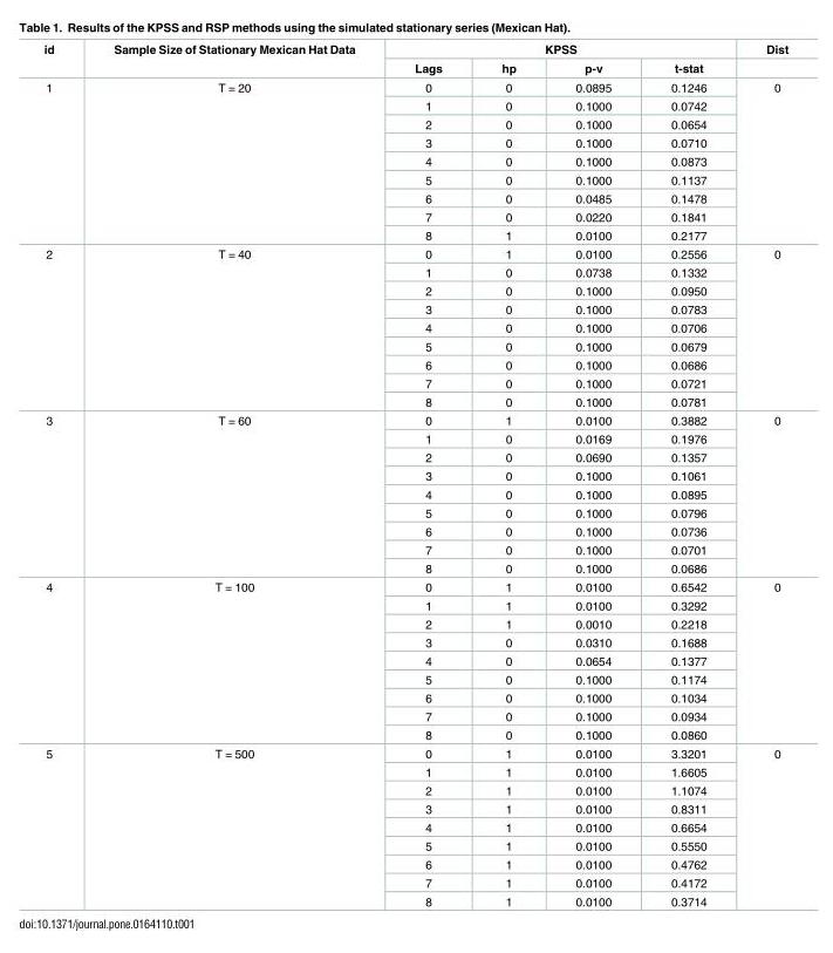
<table><thead><tr><td rowspan="2">id</td><td rowspan="2">Sample Size of Stationary Mexican Hat Data</td><td colspan="4">KPSS</td><td rowspan="2">Dist</td></tr><tr><td>Lags</td><td>hp</td><td>p-v</td><td>t-stat</td></tr></thead><tbody><tr><td rowspan="9">1</td><td rowspan="9">T = 20</td><td>0</td><td>0</td><td>0.0895</td><td>0.1246</td><td rowspan="9">0</td></tr><tr><td>1</td><td>0</td><td>0.1000</td><td>0.0742</td></tr><tr><td>2</td><td>0</td><td>0.1000</td><td>0.0654</td></tr><tr><td>3</td><td>0</td><td>0.1000</td><td>0.0710</td></tr><tr><td>4</td><td>0</td><td>0.1000</td><td>0.0873</td></tr><tr><td>5</td><td>0</td><td>0.1000</td><td>0.1137</td></tr><tr><td>6</td><td>0</td><td>0.0485</td><td>0.1478</td></tr><tr><td>7</td><td>0</td><td>0.0220</td><td>0.1841</td></tr><tr><td>8</td><td>1</td><td>0.0100</td><td>0.2177</td></tr><tr><td rowspan="9">2</td><td rowspan="9">T = 40</td><td>0</td><td>1</td><td>0.0100</td><td>0.2556</td><td rowspan="9">0</td></tr><tr><td>1</td><td>0</td><td>0.0738</td><td>0.1332</td></tr><tr><td>2</td><td>0</td><td>0.1000</td><td>0.0950</td></tr><tr><td>3</td><td>0</td><td>0.1000</td><td>0.0783</td></tr><tr><td>4</td><td>0</td><td>0.1000</td><td>0.0706</td></tr><tr><td>5</td><td>0</td><td>0.1000</td><td>0.0679</td></tr><tr><td>6</td><td>0</td><td>0.1000</td><td>0.0686</td></tr><tr><td>7</td><td>0</td><td>0.1000</td><td>0.0721</td></tr><tr><td>8</td><td>0</td><td>0.1000</td><td>0.0781</td></tr><tr><td rowspan="9">3</td><td rowspan="9">T = 60</td><td>0</td><td>1</td><td>0.0100</td><td>0.3882</td><td rowspan="9">0</td></tr><tr><td>1</td><td>0</td><td>0.0169</td><td>0.1976</td></tr><tr><td>2</td><td>0</td><td>0.0690</td><td>0.1357</td></tr><tr><td>3</td><td>0</td><td>0.1000</td><td>0.1061</td></tr><tr><td>4</td><td>0</td><td>0.1000</td><td>0.0895</td></tr><tr><td>5</td><td>0</td><td>0.1000</td><td>0.0796</td></tr><tr><td>6</td><td>0</td><td>0.1000</td><td>0.0736</td></tr><tr><td>7</td><td>0</td><td>0.1000</td><td>0.0701</td></tr><tr><td>8</td><td>0</td><td>0.1000</td><td>0.0686</td></tr><tr><td rowspan="9">4</td><td rowspan="9">T = 100</td><td>0</td><td>1</td><td>0.0100</td><td>0.6542</td><td rowspan="9">0</td></tr><tr><td>1</td><td>1</td><td>0.0100</td><td>0.3292</td></tr><tr><td>2</td><td>1</td><td>0.0010</td><td>0.2218</td></tr><tr><td>3</td><td>0</td><td>0.0310</td><td>0.1688</td></tr><tr><td>4</td><td>0</td><td>0.0654</td><td>0.1377</td></tr><tr><td>5</td><td>0</td><td>0.1000</td><td>0.1174</td></tr><tr><td>6</td><td>0</td><td>0.1000</td><td>0.1034</td></tr><tr><td>7</td><td>0</td><td>0.1000</td><td>0.0934</td></tr><tr><td>8</td><td>0</td><td>0.1000</td><td>0.0860</td></tr><tr><td rowspan="9">5</td><td rowspan="9">T = 500</td><td>0</td><td>1</td><td>0.0100</td><td>3.3201</td><td rowspan="9">0</td></tr><tr><td>1</td><td>1</td><td>0.0100</td><td>1.6605</td></tr><tr><td>2</td><td>1</td><td>0.0100</td><td>1.1074</td></tr><tr><td>3</td><td>1</td><td>0.0100</td><td>0.8311</td></tr><tr><td>4</td><td>1</td><td>0.0100</td><td>0.6654</td></tr><tr><td>5</td><td>1</td><td>0.0100</td><td>0.5550</td></tr><tr><td>6</td><td>1</td><td>0.0100</td><td>0.4762</td></tr><tr><td>7</td><td>1</td><td>0.0100</td><td>0.4172</td></tr><tr><td>8</td><td>1</td><td>0.0100</td><td>0.3714</td></tr></tbody></table>